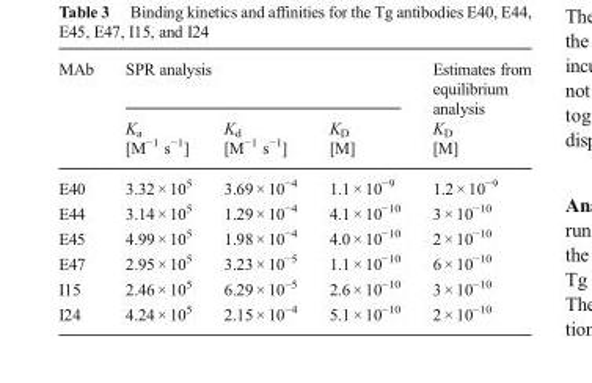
<table><thead><tr><td rowspan="2">MAb</td><td colspan="3">SPR analysis</td><td rowspan="2">Estimates from equilibrium analysis K<sub>D</sub> [M]</td></tr><tr><td>K<sub>a</sub> [M<sup>−1</sup> s<sup>−1</sup>]</td><td>K<sub>d</sub> [M<sup>−1</sup> s<sup>−1</sup>]</td><td>K<sub>D</sub> [M]</td></tr></thead><tbody><tr><td>E40</td><td>3.32 × 10<sup>5</sup></td><td>3.69 × 10<sup>−4</sup></td><td>1.1 × 10<sup>−9</sup></td><td>1.2 × 10<sup>−9</sup></td></tr><tr><td>E44</td><td>3.14 × 10<sup>5</sup></td><td>1.29 × 10<sup>−4</sup></td><td>4.1 × 10<sup>−10</sup></td><td>3 × 10<sup>−10</sup></td></tr><tr><td>E45</td><td>4.99 × 10<sup>5</sup></td><td>1.98 × 10<sup>−4</sup></td><td>4.0 × 10<sup>−10</sup></td><td>2 × 10<sup>−10</sup></td></tr><tr><td>E47</td><td>2.95 × 10<sup>5</sup></td><td>3.23 × 10<sup>−5</sup></td><td>1.1 × 10<sup>−10</sup></td><td>6 × 10<sup>−10</sup></td></tr><tr><td>I15</td><td>2.46 × 10<sup>5</sup></td><td>6.29 × 10<sup>−5</sup></td><td>2.6 × 10<sup>−10</sup></td><td>3 × 10<sup>−10</sup></td></tr><tr><td>I24</td><td>4.24 × 10<sup>5</sup></td><td>2.15 × 10<sup>−4</sup></td><td>5.1 × 10<sup>−10</sup></td><td>2 × 10<sup>−10</sup></td></tr></tbody></table>